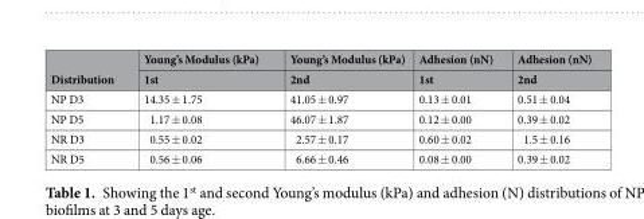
<table><thead><tr><td rowspan="2">Distribution</td><td rowspan="2">Young’s Modulus (kPa) 1st</td><td rowspan="2">Young’s Modulus (kPa) 2nd</td><td rowspan="2">Adhesion (nN) 1st</td><td rowspan="2">Adhesion (nN) 2nd</td></tr><tr></tr></thead><tbody><tr><td>NP D3</td><td>14.35 ± 1.75</td><td>41.05 ± 0.97</td><td>0.13 ± 0.01</td><td>0.51 ± 0.04</td></tr><tr><td>NP D5</td><td>1.17 ± 0.08</td><td>46.07 ± 1.87</td><td>0.12 ± 0.00</td><td>0.39 ± 0.02</td></tr><tr><td>NR D3</td><td>0.55 ± 0.02</td><td>2.57 ± 0.17</td><td>0.60 ± 0.02</td><td>1.5 ± 0.16</td></tr><tr><td>NR D5</td><td>0.56 ± 0.06</td><td>6.66 ± 0.46</td><td>0.08 ± 0.00</td><td>0.39 ± 0.02</td></tr></tbody></table>